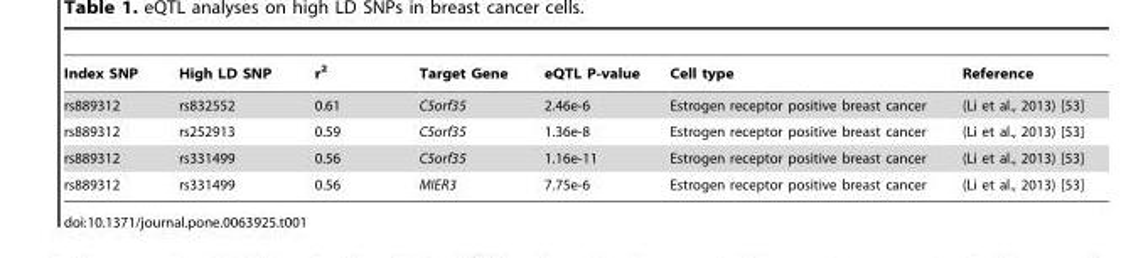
<table><thead><tr><td>Index SNP</td><td>High LD SNP</td><td>r<sup>2</sup></td><td>Target Gene</td><td>eQTL P-value</td><td>Cell type</td><td>Reference</td></tr></thead><tbody><tr><td>rs889312</td><td>rs832552</td><td>0.61</td><td>C5orf35</td><td>2.46e-6</td><td>Estrogen receptor positive breast cancer</td><td>(Li et al., 2013) [53]</td></tr><tr><td>rs889312</td><td>rs252913</td><td>0.59</td><td>C5orf35</td><td>1.36e-8</td><td>Estrogen receptor positive breast cancer</td><td>(Li et al., 2013) [53]</td></tr><tr><td>rs889312</td><td>rs331499</td><td>0.56</td><td>C5orf35</td><td>1.16e-11</td><td>Estrogen receptor positive breast cancer</td><td>(Li et al., 2013) [53]</td></tr><tr><td>rs889312</td><td>rs331499</td><td>0.56</td><td>MIER3</td><td>7.75e-6</td><td>Estrogen receptor positive breast cancer</td><td>(Li et al., 2013) [53]</td></tr></tbody></table>